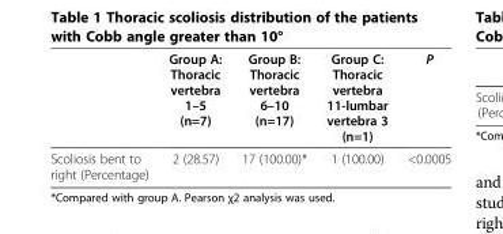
<table><thead><tr><td></td><td>Group A: Thoracic vertebra 1–5 (n=7)</td><td>Group B: Thoracic vertebra 6–10 (n=17)</td><td>Group C: Thoracic vertebra 11-lumbar vertebra 3 (n=1)</td><td>P</td></tr></thead><tbody><tr><td>Scoliosis bent to right (Percentage)</td><td>2 (28.57)</td><td>17 (100.00)*</td><td>1 (100.00)</td><td>&lt;0.0005</td></tr></tbody></table>